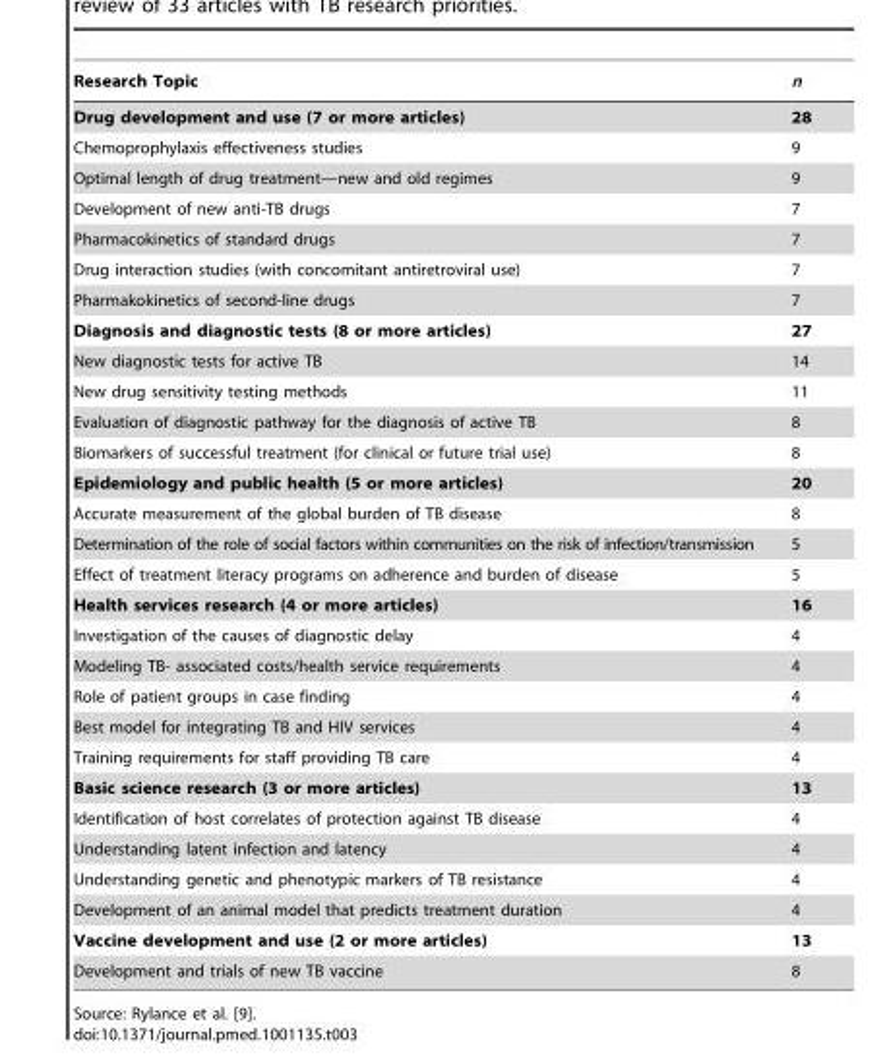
<table><thead><tr><td>Research Topic</td><td>n</td></tr></thead><tbody><tr><td>Drug development and use (7 or more articles)</td><td>28</td></tr><tr><td>Chemoprophylaxis effectiveness studies</td><td>9</td></tr><tr><td>Optimal length of drug treatment—new and old regimes</td><td>9</td></tr><tr><td>Development of new anti-TB drugs</td><td>7</td></tr><tr><td>Pharmacokinetics of standard drugs</td><td>7</td></tr><tr><td>Drug interaction studies (with concomitant antiretroviral use)</td><td>7</td></tr><tr><td>Pharmakokinetics of second-line drugs</td><td>7</td></tr><tr><td>Diagnosis and diagnostic tests (8 or more articles)</td><td>27</td></tr><tr><td>New diagnostic tests for active TB</td><td>14</td></tr><tr><td>New drug sensitivity testing methods</td><td>11</td></tr><tr><td>Evaluation of diagnostic pathway for the diagnosis of active TB</td><td>8</td></tr><tr><td>Biomarkers of successful treatment (for clinical or future trial use)</td><td>8</td></tr><tr><td>Epidemiology and public health (5 or more articles)</td><td>20</td></tr><tr><td>Accurate measurement of the global burden of TB disease</td><td>8</td></tr><tr><td>Determination of the role of social factors within communities on the risk of infection/transmission</td><td>5</td></tr><tr><td>Effect of treatment literacy programs on adherence and burden of disease</td><td>5</td></tr><tr><td>Health services research (4 or more articles)</td><td>16</td></tr><tr><td>Investigation of the causes of diagnostic delay</td><td>4</td></tr><tr><td>Modeling TB- associated costs/health service requirements</td><td>4</td></tr><tr><td>Role of patient groups in case finding</td><td>4</td></tr><tr><td>Best model for integrating TB and HIV services</td><td>4</td></tr><tr><td>Training requirements for staff providing TB care</td><td>4</td></tr><tr><td>Basic science research (3 or more articles)</td><td>13</td></tr><tr><td>Identification of host correlates of protection against TB disease</td><td>4</td></tr><tr><td>Understanding latent infection and latency</td><td>4</td></tr><tr><td>Understanding genetic and phenotypic markers of TB resistance</td><td>4</td></tr><tr><td>Development of an animal model that predicts treatment duration</td><td>4</td></tr><tr><td>Vaccine development and use (2 or more articles)</td><td>13</td></tr><tr><td>Development and trials of new TB vaccine</td><td>8</td></tr></tbody></table>